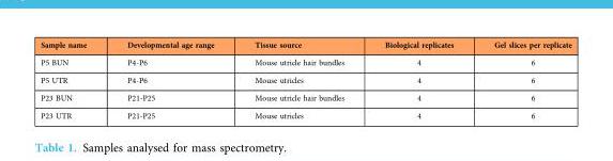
<table><thead><tr><td>Sample name</td><td>Developmental age range</td><td>Tissue source</td><td>Biological replicates</td><td>Gel slices per replicate</td></tr></thead><tbody><tr><td>P5 BUN</td><td>P4-P6</td><td>Mouse utricle hair bundles</td><td>4</td><td>6</td></tr><tr><td>P5 UTR</td><td>P4-P6</td><td>Mouse utricles</td><td>4</td><td>6</td></tr><tr><td>P23 BUN</td><td>P21-P25</td><td>Mouse utricle hair bundles</td><td>4</td><td>6</td></tr><tr><td>P23 UTR</td><td>P21-P25</td><td>Mouse utricles</td><td>4</td><td>6</td></tr></tbody></table>